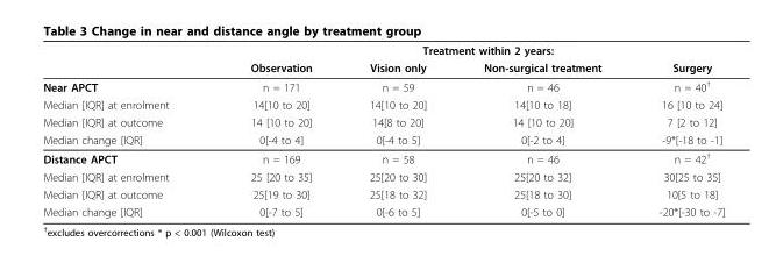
<table><thead><tr><td rowspan="2"></td><td colspan="4">Treatment within 2 years:</td></tr><tr><td>Observation</td><td>Vision only</td><td>Non-surgical treatment</td><td>Surgery</td></tr></thead><tbody><tr><td>Near APCT</td><td>n = 171</td><td>n = 59</td><td>n = 46</td><td>n = 40<sup>†</sup></td></tr><tr><td>Median [IQR] at enrolment</td><td>14[10 to 20]</td><td>14[10 to 20]</td><td>14[10 to 18]</td><td>16 [10 to 24]</td></tr><tr><td>Median [IQR] at outcome</td><td>14 [10 to 20]</td><td>14[8 to 20]</td><td>14 [10 to 20]</td><td>7 [2 to 12]</td></tr><tr><td>Median change [IQR]</td><td>0[-4 to 4]</td><td>0[-4 to 5]</td><td>0[-2 to 4]</td><td>-9*[-18 to -1]</td></tr><tr><td>Distance APCT</td><td>n = 169</td><td>n = 58</td><td>n = 46</td><td>n = 42<sup>†</sup></td></tr><tr><td>Median [IQR] at enrolment</td><td>25 [20 to 35]</td><td>25[20 to 30]</td><td>25[20 to 32]</td><td>30[25 to 35]</td></tr><tr><td>Median [IQR] at outcome</td><td>25[19 to 30]</td><td>25[18 to 32]</td><td>25[18 to 30]</td><td>10[5 to 18]</td></tr><tr><td>Median change [IQR]</td><td>0[-7 to 5]</td><td>0[-6 to 5]</td><td>0[-5 to 0]</td><td>-20*[-30 to -7]</td></tr></tbody></table>